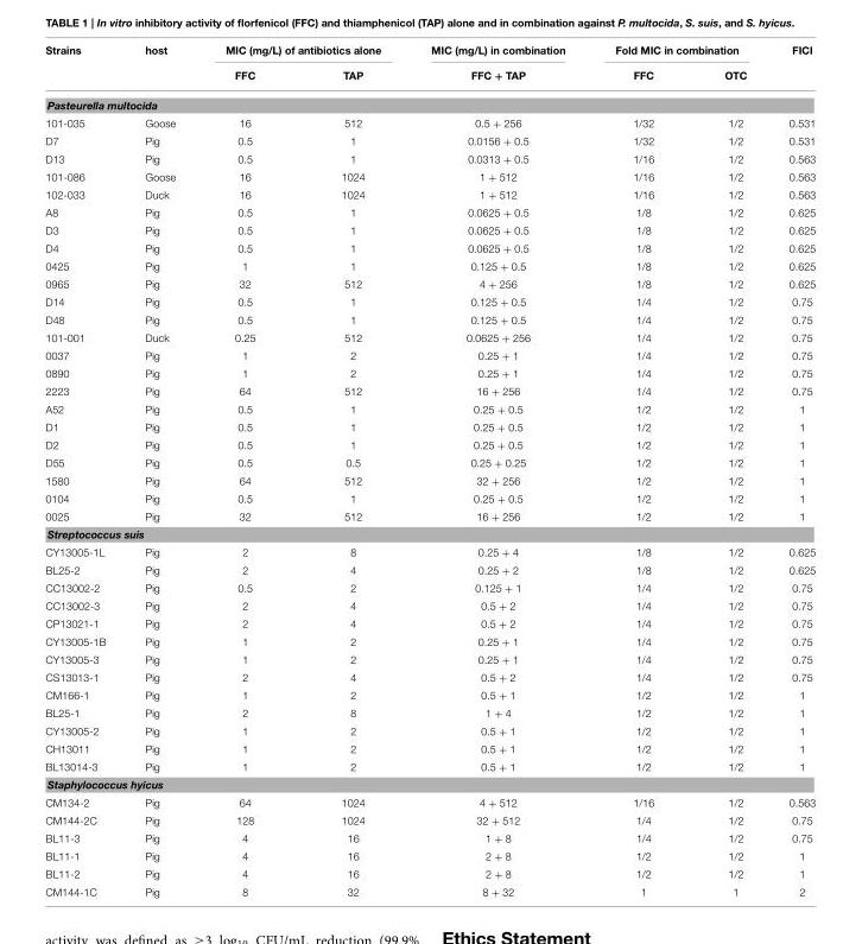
<table><thead><tr><td rowspan="2">Strains</td><td rowspan="2">host</td><td colspan="2">MIC (mg/L) of antibiotics alone</td><td rowspan="2">MIC (mg/L) in combination FFC + TAP</td><td colspan="2">Fold MIC in combination</td><td rowspan="2">FICI</td></tr><tr><td>FFC</td><td>TAP</td><td>FFC</td><td>OTC</td></tr></thead><tbody><tr><td colspan="8">Pasteurella multocida</td></tr><tr><td>101-035</td><td>Goose</td><td>16</td><td>512</td><td>0.5 + 256</td><td>1/32</td><td>1/2</td><td>0.531</td></tr><tr><td>D7</td><td>Pig</td><td>0.5</td><td>1</td><td>0.0156 + 0.5</td><td>1/32</td><td>1/2</td><td>0.531</td></tr><tr><td>D13</td><td>Pig</td><td>0.5</td><td>1</td><td>0.0313 + 0.5</td><td>1/16</td><td>1/2</td><td>0.563</td></tr><tr><td>101-086</td><td>Goose</td><td>16</td><td>1024</td><td>1 + 512</td><td>1/16</td><td>1/2</td><td>0.563</td></tr><tr><td>102-033</td><td>Duck</td><td>16</td><td>1024</td><td>1 + 512</td><td>1/16</td><td>1/2</td><td>0.563</td></tr><tr><td>A8</td><td>Pig</td><td>0.5</td><td>1</td><td>0.0625 + 0.5</td><td>1/8</td><td>1/2</td><td>0.625</td></tr><tr><td>D3</td><td>Pig</td><td>0.5</td><td>1</td><td>0.0625 + 0.5</td><td>1/8</td><td>1/2</td><td>0.625</td></tr><tr><td>D4</td><td>Pig</td><td>0.5</td><td>1</td><td>0.0625 + 0.5</td><td>1/8</td><td>1/2</td><td>0.625</td></tr><tr><td>0425</td><td>Pig</td><td>1</td><td>1</td><td>0.125 + 0.5</td><td>1/8</td><td>1/2</td><td>0.625</td></tr><tr><td>0965</td><td>Pig</td><td>32</td><td>512</td><td>4 + 256</td><td>1/8</td><td>1/2</td><td>0.625</td></tr><tr><td>D14</td><td>Pig</td><td>0.5</td><td>1</td><td>0.125 + 0.5</td><td>1/4</td><td>1/2</td><td>0.75</td></tr><tr><td>D48</td><td>Pig</td><td>0.5</td><td>1</td><td>0.125 + 0.5</td><td>1/4</td><td>1/2</td><td>0.75</td></tr><tr><td>101-001</td><td>Duck</td><td>0.25</td><td>512</td><td>0.0625 + 256</td><td>1/4</td><td>1/2</td><td>0.75</td></tr><tr><td>0037</td><td>Pig</td><td>1</td><td>2</td><td>0.25 + 1</td><td>1/4</td><td>1/2</td><td>0.75</td></tr><tr><td>0890</td><td>Pig</td><td>1</td><td>2</td><td>0.25 + 1</td><td>1/4</td><td>1/2</td><td>0.75</td></tr><tr><td>2223</td><td>Pig</td><td>64</td><td>512</td><td>16 + 256</td><td>1/4</td><td>1/2</td><td>0.75</td></tr><tr><td>A52</td><td>Pig</td><td>0.5</td><td>1</td><td>0.25 + 0.5</td><td>1/2</td><td>1/2</td><td>1</td></tr><tr><td>D1</td><td>Pig</td><td>0.5</td><td>1</td><td>0.25 + 0.5</td><td>1/2</td><td>1/2</td><td>1</td></tr><tr><td>D2</td><td>Pig</td><td>0.5</td><td>1</td><td>0.25 + 0.5</td><td>1/2</td><td>1/2</td><td>1</td></tr><tr><td>D55</td><td>Pig</td><td>0.5</td><td>0.5</td><td>0.25 + 0.25</td><td>1/2</td><td>1/2</td><td>1</td></tr><tr><td>1580</td><td>Pig</td><td>64</td><td>512</td><td>32 + 256</td><td>1/2</td><td>1/2</td><td>1</td></tr><tr><td>0104</td><td>Pig</td><td>0.5</td><td>1</td><td>0.25 + 0.5</td><td>1/2</td><td>1/2</td><td>1</td></tr><tr><td>0025</td><td>Pig</td><td>32</td><td>512</td><td>16 + 256</td><td>1/2</td><td>1/2</td><td>1</td></tr><tr><td colspan="8">Streptococcus suis</td></tr><tr><td>CY13005-1L</td><td>Pig</td><td>2</td><td>8</td><td>0.25 + 4</td><td>1/8</td><td>1/2</td><td>0.625</td></tr><tr><td>BL25-2</td><td>Pig</td><td>2</td><td>4</td><td>0.25 + 2</td><td>1/8</td><td>1/2</td><td>0.625</td></tr><tr><td>CC13002-2</td><td>Pig</td><td>0.5</td><td>2</td><td>0.125 + 1</td><td>1/4</td><td>1/2</td><td>0.75</td></tr><tr><td>CC13002-3</td><td>Pig</td><td>2</td><td>4</td><td>0.5 + 2</td><td>1/4</td><td>1/2</td><td>0.75</td></tr><tr><td>CP13021-1</td><td>Pig</td><td>2</td><td>4</td><td>0.5 + 2</td><td>1/4</td><td>1/2</td><td>0.75</td></tr><tr><td>CY13005-1B</td><td>Pig</td><td>1</td><td>2</td><td>0.25 + 1</td><td>1/4</td><td>1/2</td><td>0.75</td></tr><tr><td>CY13005-3</td><td>Pig</td><td>1</td><td>2</td><td>0.25 + 1</td><td>1/4</td><td>1/2</td><td>0.75</td></tr><tr><td>CS13013-1</td><td>Pig</td><td>2</td><td>4</td><td>0.5 + 2</td><td>1/4</td><td>1/2</td><td>0.75</td></tr><tr><td>CM166-1</td><td>Pig</td><td>1</td><td>2</td><td>0.5 + 1</td><td>1/2</td><td>1/2</td><td>1</td></tr><tr><td>BL25-1</td><td>Pig</td><td>2</td><td>8</td><td>1 + 4</td><td>1/2</td><td>1/2</td><td>1</td></tr><tr><td>CY13005-2</td><td>Pig</td><td>1</td><td>2</td><td>0.5 + 1</td><td>1/2</td><td>1/2</td><td>1</td></tr><tr><td>CH13011</td><td>Pig</td><td>1</td><td>2</td><td>0.5 + 1</td><td>1/2</td><td>1/2</td><td>1</td></tr><tr><td>BL13014-3</td><td>Pig</td><td>1</td><td>2</td><td>0.5 + 1</td><td>1/2</td><td>1/2</td><td>1</td></tr><tr><td colspan="8">Staphylococcus hyicus</td></tr><tr><td>CM134-2</td><td>Pig</td><td>64</td><td>1024</td><td>4 + 512</td><td>1/16</td><td>1/2</td><td>0.563</td></tr><tr><td>CM144-2C</td><td>Pig</td><td>128</td><td>1024</td><td>32 + 512</td><td>1/4</td><td>1/2</td><td>0.75</td></tr><tr><td>BL11-3</td><td>Pig</td><td>4</td><td>16</td><td>1 + 8</td><td>1/4</td><td>1/2</td><td>0.75</td></tr><tr><td>BL11-1</td><td>Pig</td><td>4</td><td>16</td><td>2 + 8</td><td>1/2</td><td>1/2</td><td>1</td></tr><tr><td>BL11-2</td><td>Pig</td><td>4</td><td>16</td><td>2 + 8</td><td>1/2</td><td>1/2</td><td>1</td></tr><tr><td>CM144-1C</td><td>Pig</td><td>8</td><td>32</td><td>8 + 32</td><td>1</td><td>1</td><td>2</td></tr></tbody></table>